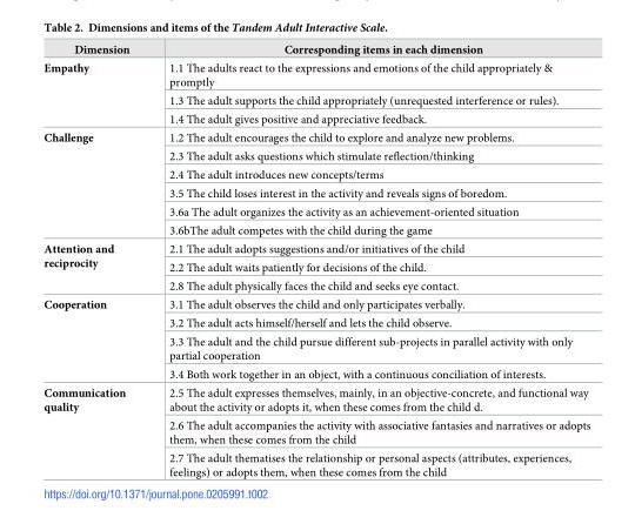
<table><thead><tr><td>Dimension</td><td>Corresponding items in each dimension</td></tr></thead><tbody><tr><td rowspan="3">Empathy</td><td>1.1 The adults react to the expressions and emotions of the child appropriately &amp; promptly</td></tr><tr><td>1.3 The adult supports the child appropriately (unrequested interference or rules).</td></tr><tr><td>1.4 The adult gives positive and appreciative feedback.</td></tr><tr><td rowspan="6">Challenge</td><td>1.2 The adult encourages the child to explore and analyze new problems.</td></tr><tr><td>2.3 The adult asks questions which stimulate reflection/thinking</td></tr><tr><td>2.4 The adult introduces new concepts/terms</td></tr><tr><td>3.5 The child loses interest in the activity and reveals signs of boredom.</td></tr><tr><td>3.6a The adult organizes the activity as an achievement-oriented situation</td></tr><tr><td>3.6bThe adult competes with the child during the game</td></tr><tr><td rowspan="3">Attention and reciprocity</td><td>2.1 The adult adopts suggestions and/or initiatives of the child</td></tr><tr><td>2.2 The adult waits patiently for decisions of the child.</td></tr><tr><td>2.8 The adult physically faces the child and seeks eye contact.</td></tr><tr><td rowspan="4">Cooperation</td><td>3.1 The adult observes the child and only participates verbally.</td></tr><tr><td>3.2 The adult acts himself/herself and lets the child observe.</td></tr><tr><td>3.3 The adult and the child pursue different sub-projects in parallel activity with only partial cooperation</td></tr><tr><td>3.4 Both work together in an object, with a continuous conciliation of interests.</td></tr><tr><td rowspan="3">Communication quality</td><td>2.5 The adult expresses themselves, mainly, in an objective-concrete, and functional way about the activity or adopts it, when these comes from the child d.</td></tr><tr><td>2.6 The adult accompanies the activity with associative fantasies and narratives or adopts them, when these comes from the child</td></tr><tr><td>2.7 The adult thematises the relationship or personal aspects (attributes, experiences, feelings) or adopts them, when these comes from the child</td></tr></tbody></table>